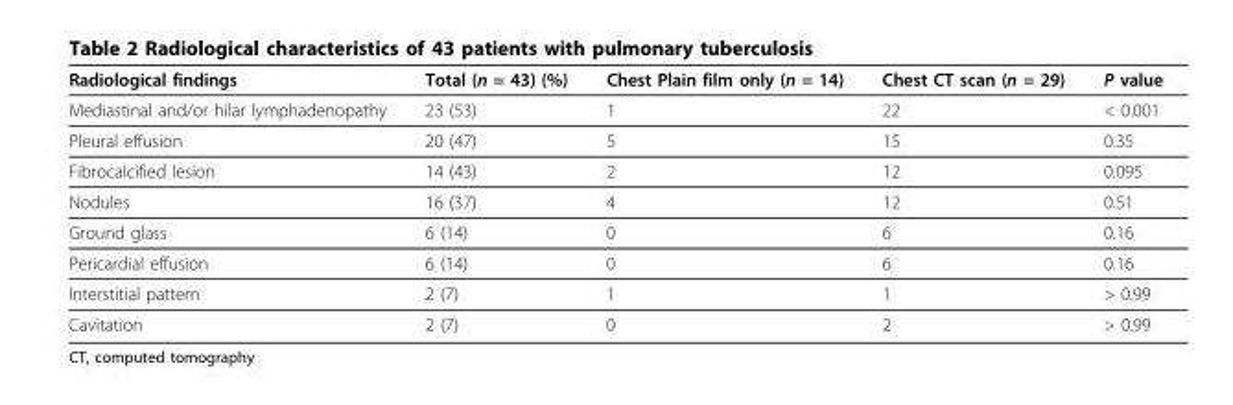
<table><thead><tr><td>Radiological findings</td><td>Total (n = 43) (%)</td><td>Chest Plain film only (n = 14)</td><td>Chest CT scan (n = 29)</td><td>P value</td></tr></thead><tbody><tr><td>Mediastinal and/or hilar lymphadenopathy</td><td>23 (53)</td><td>1</td><td>22</td><td>&lt; 0.001</td></tr><tr><td>Pleural effusion</td><td>20 (47)</td><td>5</td><td>15</td><td>0.35</td></tr><tr><td>Fibrocalcified lesion</td><td>14 (43)</td><td>2</td><td>12</td><td>0.095</td></tr><tr><td>Nodules</td><td>16 (37)</td><td>4</td><td>12</td><td>0.51</td></tr><tr><td>Ground glass</td><td>6 (14)</td><td>0</td><td>6</td><td>0.16</td></tr><tr><td>Pericardial effusion</td><td>6 (14)</td><td>0</td><td>6</td><td>0.16</td></tr><tr><td>Interstitial pattern</td><td>2 (7)</td><td>1</td><td>1</td><td>&gt; 0.99</td></tr><tr><td>Cavitation</td><td>2 (7)</td><td>0</td><td>2</td><td>&gt; 0.99</td></tr></tbody></table>